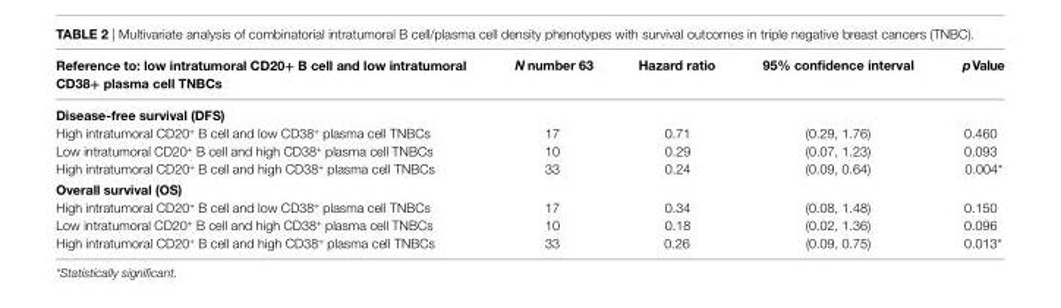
<table><thead><tr><td>reference to: low intratumoral cD20+ B cell and low intratumoral cD38+ plasma cell TnBcs</td><td>N number 63</td><td>hazard ratio</td><td>95% confidence interval</td><td>pValue</td></tr></thead><tbody><tr><td colspan="5">Disease-free survival (DFs)</td></tr><tr><td>High intratumoral CD20<sup>+</sup> B cell and low CD38<sup>+</sup> plasma cell TNBCs</td><td>17</td><td>0.71</td><td>(0.29, 1.76)</td><td>0.460</td></tr><tr><td>Low intratumoral CD20<sup>+</sup> B cell and high CD38<sup>+</sup> plasma cell TNBCs</td><td>10</td><td>0.29</td><td>(0.07, 1.23)</td><td>0.093</td></tr><tr><td>High intratumoral CD20<sup>+</sup> B cell and high CD38<sup>+</sup> plasma cell TNBCs</td><td>33</td><td>0.24</td><td>(0.09, 0.64)</td><td>0.004*</td></tr><tr><td colspan="5">Overall survival (Os)</td></tr><tr><td>High intratumoral CD20<sup>+</sup> B cell and low CD38<sup>+</sup> plasma cell TNBCs</td><td>17</td><td>0.34</td><td>(0.08, 1.48)</td><td>0.150</td></tr><tr><td>Low intratumoral CD20<sup>+</sup> B cell and high CD38<sup>+</sup> plasma cell TNBCs</td><td>10</td><td>0.18</td><td>(0.02, 1.36)</td><td>0.096</td></tr><tr><td>High intratumoral CD20<sup>+</sup> B cell and high CD38<sup>+</sup> plasma cell TNBCs</td><td>33</td><td>0.26</td><td>(0.09, 0.75)</td><td>0.013*</td></tr></tbody></table>